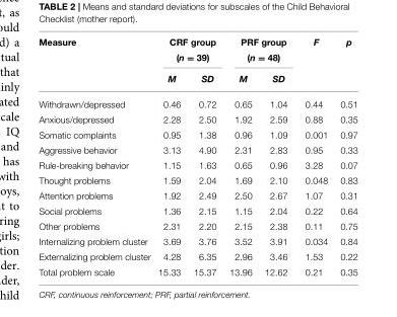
<table><thead><tr><td rowspan="2">Measure</td><td colspan="2">CRF group (n = 39)</td><td colspan="2">PRF group (n = 48)</td><td rowspan="2">F</td><td rowspan="2">p</td></tr><tr><td>M</td><td>SD</td><td>M</td><td>SD</td></tr></thead><tbody><tr><td>Withdrawn/depressed</td><td>0.46</td><td>0.72</td><td>0.65</td><td>1.04</td><td>0.44</td><td>0.51</td></tr><tr><td>Anxious/depressed</td><td>2.28</td><td>2.50</td><td>1.92</td><td>2.59</td><td>0.88</td><td>0.35</td></tr><tr><td>Somatic complaints</td><td>0.95</td><td>1.38</td><td>0.96</td><td>1.09</td><td>0.001</td><td>0.97</td></tr><tr><td>Aggressive behavior</td><td>3.13</td><td>4.90</td><td>2.31</td><td>2.83</td><td>0.95</td><td>0.33</td></tr><tr><td>Rule-breaking behavior</td><td>1.15</td><td>1.63</td><td>0.65</td><td>0.96</td><td>3.28</td><td>0.07</td></tr><tr><td>Thought problems</td><td>1.59</td><td>2.04</td><td>1.69</td><td>2.10</td><td>0.048</td><td>0.83</td></tr><tr><td>Attention problems</td><td>1.92</td><td>2.49</td><td>2.50</td><td>2.67</td><td>1.07</td><td>0.31</td></tr><tr><td>Social problems</td><td>1.36</td><td>2.15</td><td>1.15</td><td>2.04</td><td>0.22</td><td>0.64</td></tr><tr><td>Other problems</td><td>2.31</td><td>2.20</td><td>2.15</td><td>2.38</td><td>0.11</td><td>0.75</td></tr><tr><td>Internalizing problem cluster</td><td>3.69</td><td>3.76</td><td>3.52</td><td>3.91</td><td>0.034</td><td>0.84</td></tr><tr><td>Externalizing problem cluster</td><td>4.28</td><td>6.35</td><td>2.96</td><td>3.46</td><td>1.53</td><td>0.22</td></tr><tr><td>Total problem scale</td><td>15.33</td><td>15.37</td><td>13.96</td><td>12.62</td><td>0.21</td><td>0.35</td></tr></tbody></table>